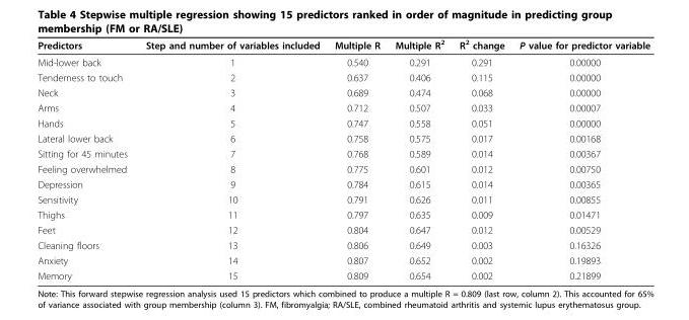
<table><thead><tr><td>Predictors</td><td>Step and number of variables included</td><td>Multiple R</td><td>Multiple R<sup>2</sup></td><td>R<sup>2</sup> change</td><td>P value for predictor variable</td></tr></thead><tbody><tr><td>Mid-lower back</td><td>1</td><td>0.540</td><td>0.291</td><td>0.291</td><td>0.00000</td></tr><tr><td>Tenderness to touch</td><td>2</td><td>0.637</td><td>0.406</td><td>0.115</td><td>0.00000</td></tr><tr><td>Neck</td><td>3</td><td>0.689</td><td>0.474</td><td>0.068</td><td>0.00000</td></tr><tr><td>Arms</td><td>4</td><td>0.712</td><td>0.507</td><td>0.033</td><td>0.00007</td></tr><tr><td>Hands</td><td>5</td><td>0.747</td><td>0.558</td><td>0.051</td><td>0.00000</td></tr><tr><td>Lateral lower back</td><td>6</td><td>0.758</td><td>0.575</td><td>0.017</td><td>0.00168</td></tr><tr><td>Sitting for 45 minutes</td><td>7</td><td>0.768</td><td>0.589</td><td>0.014</td><td>0.00367</td></tr><tr><td>Feeling overwhelmed</td><td>8</td><td>0.775</td><td>0.601</td><td>0.012</td><td>0.00750</td></tr><tr><td>Depression</td><td>9</td><td>0.784</td><td>0.615</td><td>0.014</td><td>0.00365</td></tr><tr><td>Sensitivity</td><td>10</td><td>0.791</td><td>0.626</td><td>0.011</td><td>0.00855</td></tr><tr><td>Thighs</td><td>11</td><td>0.797</td><td>0.635</td><td>0.009</td><td>0.01471</td></tr><tr><td>Feet</td><td>12</td><td>0.804</td><td>0.647</td><td>0.012</td><td>0.00529</td></tr><tr><td>Cleaning floors</td><td>13</td><td>0.806</td><td>0.649</td><td>0.003</td><td>0.16326</td></tr><tr><td>Anxiety</td><td>14</td><td>0.807</td><td>0.652</td><td>0.002</td><td>0.19893</td></tr><tr><td>Memory</td><td>15</td><td>0.809</td><td>0.654</td><td>0.002</td><td>0.21899</td></tr></tbody></table>